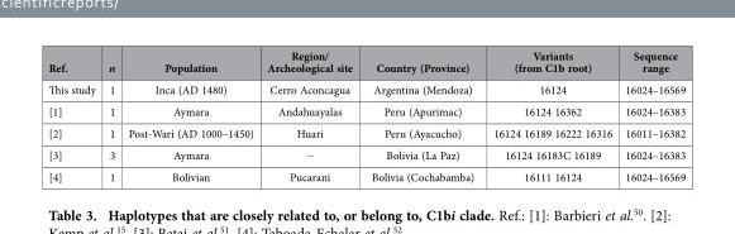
<table><thead><tr><td>Ref.</td><td>n</td><td>Population</td><td>Region/ Archeological site</td><td>Country (Province)</td><td>Variants (from C1b root)</td><td>Sequence range</td></tr></thead><tbody><tr><td>This study</td><td>1</td><td>Inca (AD 1480)</td><td>Cerro Aconcagua</td><td>Argentina (Mendoza)</td><td>16124</td><td>16024–16569</td></tr><tr><td>[1]</td><td>1</td><td>Aymara</td><td>Andahuayalas</td><td>Peru (Apurimac)</td><td>16124 16362</td><td>16024–16383</td></tr><tr><td>[2]</td><td>1</td><td>Post-Wari (AD 1000–1450)</td><td>Huari</td><td>Peru (Ayacucho)</td><td>16124 16189 16222 16316</td><td>16011–16382</td></tr><tr><td>[3]</td><td>3</td><td>Aymara</td><td>−</td><td>Bolivia (La Paz)</td><td>16124 16183C 16189</td><td>16024–16383</td></tr><tr><td>[4]</td><td>1</td><td>Bolivian</td><td>Pucarani</td><td>Bolivia (Cochabamba)</td><td>16111 16124</td><td>16024–16569</td></tr></tbody></table>